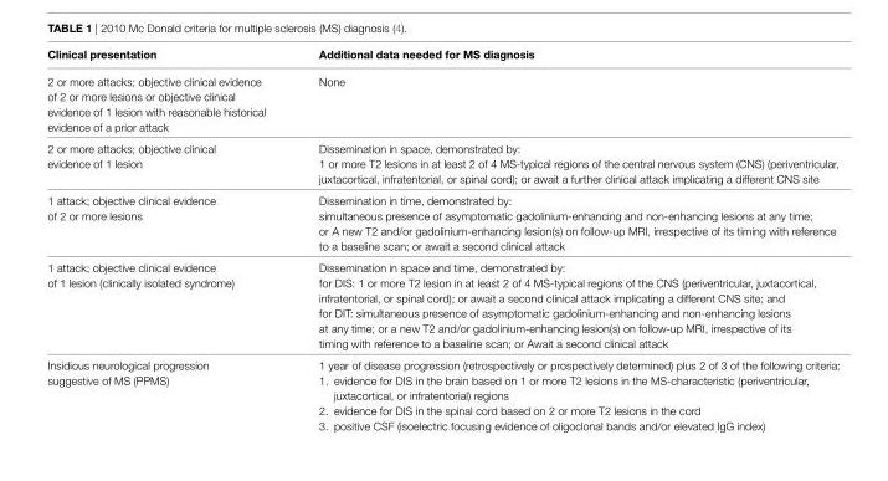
<table><thead><tr><td>Clinical presentation</td><td>Additional data needed for MS diagnosis</td></tr></thead><tbody><tr><td>2 or more attacks; objective clinical evidence of 2 or more lesions or objective clinical evidence of 1 lesion with reasonable historical evidence of a prior attack</td><td>None</td></tr><tr><td>2 or more attacks; objective clinical evidence of 1 lesion</td><td>Dissemination in space, demonstrated by: 1 or more T2 lesions in at least 2 of 4 MS-typical regions of the central nervous system (CNS) (periventricular, juxtacortical, infratentorial, or spinal cord); or await a further clinical attack implicating a different CNS site</td></tr><tr><td>1 attack; objective clinical evidence of 2 or more lesions</td><td>Dissemination in time, demonstrated by: simultaneous presence of asymptomatic gadolinium-enhancing and non-enhancing lesions at any time; or A new T2 and/or gadolinium-enhancing lesion(s) on follow-up MRI, irrespective of its timing with reference to a baseline scan; or await a second clinical attack</td></tr><tr><td>1 attack; objective clinical evidence of 1 lesion (clinically isolated syndrome)</td><td>Dissemination in space and time, demonstrated by: for DIS: 1 or more T2 lesion in at least 2 of 4 MS-typical regions of the CNS (periventricular, juxtacortical, infratentorial, or spinal cord); or await a second clinical attack implicating a different CNS site; and for DIT: simultaneous presence of asymptomatic gadolinium-enhancing and non-enhancing lesions at any time; or a new T2 and/or gadolinium-enhancing lesion(s) on follow-up MRI, irrespective of its timing with reference to a baseline scan; or Await a second clinical attack</td></tr><tr><td>Insidious neurological progression suggestive of MS (PPMS)</td><td>1 year of disease progression (retrospectively or prospectively determined) plus 2 of 3 of the following criteria: 1. evidence for DIS in the brain based on 1 or more T2 lesions in the MS-characteristic (periventricular, juxtacortical, or infratentorial) regions 2. evidence for DIS in the spinal cord based on 2 or more T2 lesions in the cord 3. positive CSF (isoelectric focusing evidence of oligoclonal bands and/or elevated IgG index)</td></tr></tbody></table>